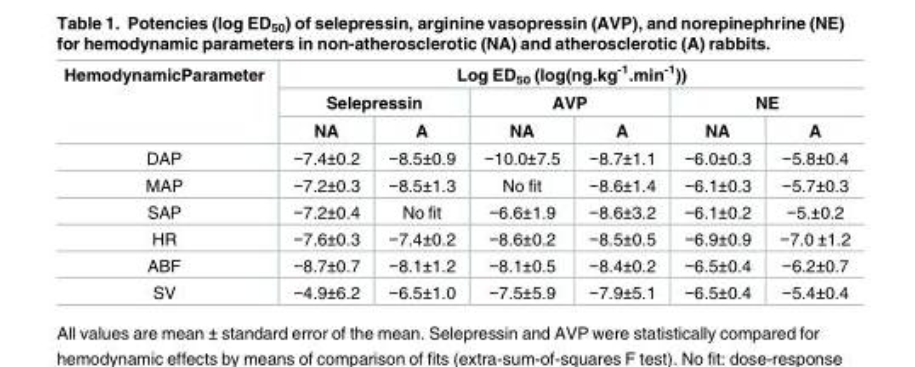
<table><thead><tr><td rowspan="3">HemodynamicParameter</td><td colspan="6">Log ED<sub>50</sub> (log(ng.kg<sup>-1</sup>.min<sup>-1</sup>))</td></tr><tr><td colspan="2">Selepressin</td><td colspan="2">AVP</td><td colspan="2">NE</td></tr><tr><td>NA</td><td>A</td><td>NA</td><td>A</td><td>NA</td><td>A</td></tr></thead><tbody><tr><td>DAP</td><td>−7.4±0.2</td><td>−8.5±0.9</td><td>−10.0±7.5</td><td>−8.7±1.1</td><td>−6.0±0.3</td><td>−5.8±0.4</td></tr><tr><td>MAP</td><td>−7.2±0.3</td><td>−8.5±1.3</td><td>No fit</td><td>−8.6±1.4</td><td>−6.1±0.3</td><td>−5.7±0.3</td></tr><tr><td>SAP</td><td>−7.2±0.4</td><td>No fit</td><td>−6.6±1.9</td><td>−8.6±3.2</td><td>−6.1±0.2</td><td>−5.±0.2</td></tr><tr><td>HR</td><td>−7.6±0.3</td><td>−7.4±0.2</td><td>−8.6±0.2</td><td>−8.5±0.5</td><td>−6.9±0.9</td><td>−7.0 ±1.2</td></tr><tr><td>ABF</td><td>−8.7±0.7</td><td>−8.1±1.2</td><td>−8.1±0.5</td><td>−8.4±0.2</td><td>−6.5±0.4</td><td>−6.2±0.7</td></tr><tr><td>SV</td><td>−4.9±6.2</td><td>−6.5±1.0</td><td>−7.5±5.9</td><td>−7.9±5.1</td><td>−6.5±0.4</td><td>−5.4±0.4</td></tr></tbody></table>